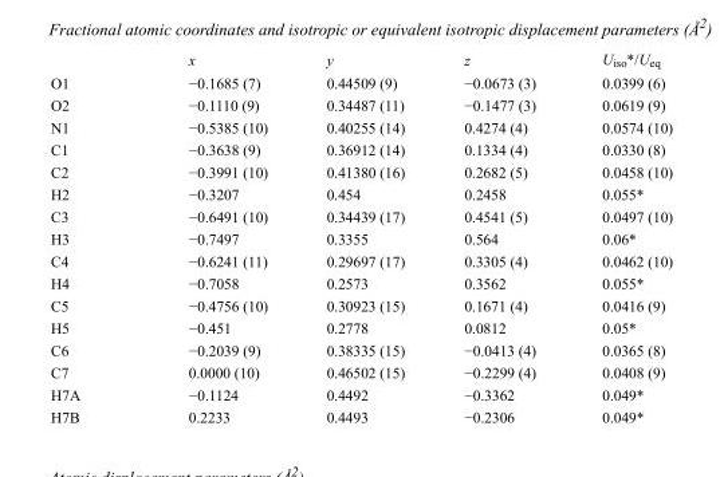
<table><thead><tr><td></td><td>x</td><td>y</td><td>z</td><td>U<sub>iso</sub>*/U<sub>eq</sub></td></tr></thead><tbody><tr><td>O1</td><td>−0.1685 (7)</td><td>0.44509 (9)</td><td>−0.0673 (3)</td><td>0.0399 (6)</td></tr><tr><td>O2</td><td>−0.1110 (9)</td><td>0.34487 (11)</td><td>−0.1477 (3)</td><td>0.0619 (9)</td></tr><tr><td>N1</td><td>−0.5385 (10)</td><td>0.40255 (14)</td><td>0.4274 (4)</td><td>0.0574 (10)</td></tr><tr><td>C1</td><td>−0.3638 (9)</td><td>0.36912 (14)</td><td>0.1334 (4)</td><td>0.0330 (8)</td></tr><tr><td>C2</td><td>−0.3991 (10)</td><td>0.41380 (16)</td><td>0.2682 (5)</td><td>0.0458 (10)</td></tr><tr><td>H2</td><td>−0.3207</td><td>0.454</td><td>0.2458</td><td>0.055*</td></tr><tr><td>C3</td><td>−0.6491 (10)</td><td>0.34439 (17)</td><td>0.4541 (5)</td><td>0.0497 (10)</td></tr><tr><td>H3</td><td>−0.7497</td><td>0.3355</td><td>0.564</td><td>0.06*</td></tr><tr><td>C4</td><td>−0.6241 (11)</td><td>0.29697 (17)</td><td>0.3305 (4)</td><td>0.0462 (10)</td></tr><tr><td>H4</td><td>−0.7058</td><td>0.2573</td><td>0.3562</td><td>0.055*</td></tr><tr><td>C5</td><td>−0.4756 (10)</td><td>0.30923 (15)</td><td>0.1671 (4)</td><td>0.0416 (9)</td></tr><tr><td>H5</td><td>−0.451</td><td>0.2778</td><td>0.0812</td><td>0.05*</td></tr><tr><td>C6</td><td>−0.2039 (9)</td><td>0.38335 (15)</td><td>−0.0413 (4)</td><td>0.0365 (8)</td></tr><tr><td>C7</td><td>0.0000 (10)</td><td>0.46502 (15)</td><td>−0.2299 (4)</td><td>0.0408 (9)</td></tr><tr><td>H7A</td><td>−0.1124</td><td>0.4492</td><td>−0.3362</td><td>0.049*</td></tr><tr><td>H7B</td><td>0.2233</td><td>0.4493</td><td>−0.2306</td><td>0.049*</td></tr></tbody></table>